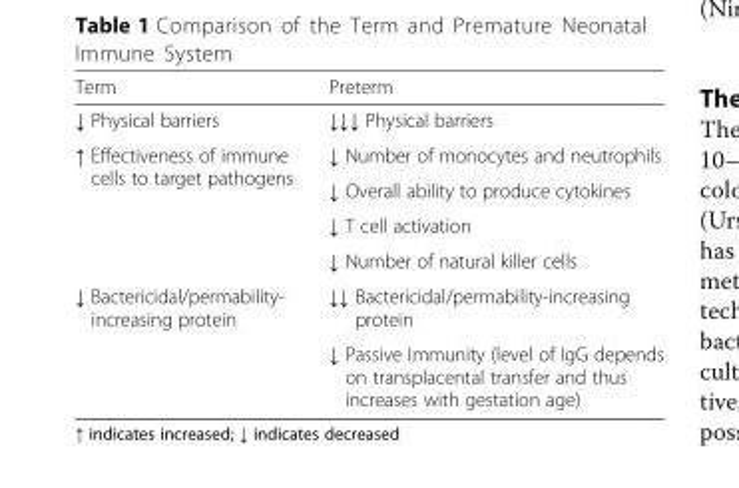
<table><thead><tr><td>Term</td><td>Preterm</td></tr></thead><tbody><tr><td>↓ Physical barriers</td><td>↓↓↓ Physical barriers</td></tr><tr><td rowspan="4">↑ Effectiveness of immune cells to target pathogens</td><td>↓ Number of monocytes and neutrophils</td></tr><tr><td>↓ Overall ability to produce cytokines</td></tr><tr><td>↓ T cell activation</td></tr><tr><td>↓ Number of natural killer cells</td></tr><tr><td rowspan="2">↓ Bactericidal/permability- increasing protein</td><td>↓↓ Bactericidal/permability-increasing protein</td></tr><tr><td>↓ Passive Immunity (level of IgG depends on transplacental transfer and thus increases with gestation age)</td></tr></tbody></table>